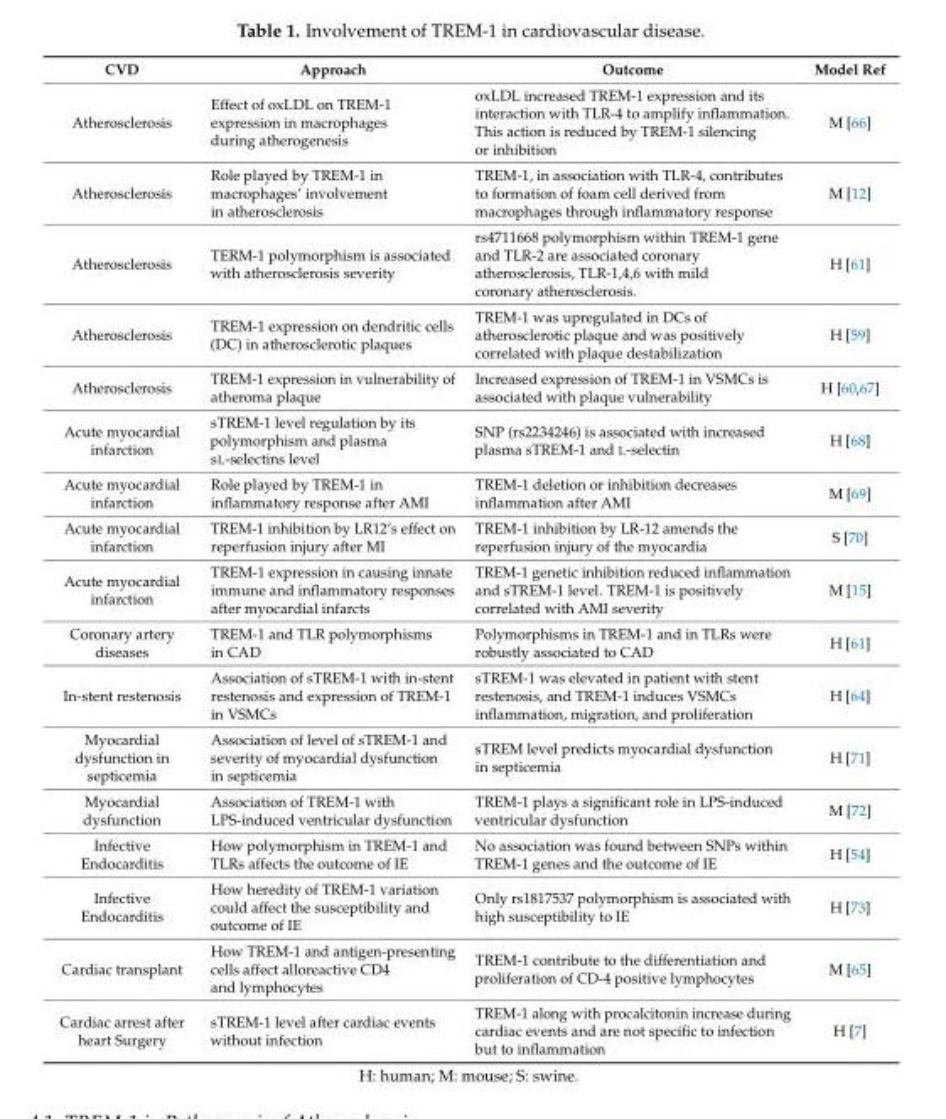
<table><thead><tr><td>CVD</td><td>Approach</td><td>Outcome</td><td>Model Ref</td></tr></thead><tbody><tr><td>Atherosclerosis</td><td>Effect of oxLDL on TREM-1 expression in macrophages during atherogenesis</td><td>oxLDL increased TREM-1 expression and its interaction with TLR-4 to amplify inflammation. This action is reduced by TREM-1 silencing or inhibition</td><td>M [66]</td></tr><tr><td>Atherosclerosis</td><td>Role played by TREM-1 in macrophages’ involvement in atherosclerosis</td><td>TREM-1, in association with TLR-4, contributes to formation of foam cell derived from macrophages through inflammatory response</td><td>M [12]</td></tr><tr><td>Atherosclerosis</td><td>TERM-1 polymorphism is associated with atherosclerosis severity</td><td>rs4711668 polymorphism within TREM-1 gene and TLR-2 are associated coronary atherosclerosis, TLR-1,4,6 with mild coronary atherosclerosis.</td><td>H [61]</td></tr><tr><td>Atherosclerosis</td><td>TREM-1 expression on dendritic cells (DC) in atherosclerotic plaques</td><td>TREM-1 was upregulated in DCs of atherosclerotic plaque and was positively correlated with plaque destabilization</td><td>H [59]</td></tr><tr><td>Atherosclerosis</td><td>TREM-1 expression in vulnerability of atheroma plaque</td><td>Increased expression of TREM-1 in VSMCs is associated with plaque vulnerability</td><td>H [60,67]</td></tr><tr><td>Acute myocardial infarction</td><td>sTREM-1 level regulation by its polymorphism and plasma sL-selectins level</td><td>SNP (rs2234246) is associated with increased plasma sTREM-1 and L-selectin</td><td>H [68]</td></tr><tr><td>Acute myocardial infarction</td><td>Role played by TREM-1 in inflammatory response after AMI</td><td>TREM-1 deletion or inhibition decreases inflammation after AMI</td><td>M [69]</td></tr><tr><td>Acute myocardial infarction</td><td>TREM-1 inhibition by LR12’s effect on reperfusion injury after MI</td><td>TREM-1 inhibition by LR-12 amends the reperfusion injury of the myocardia</td><td>S [70]</td></tr><tr><td>Acute myocardial infarction</td><td>TREM-1 expression in causing innate immune and inflammatory responses after myocardial infarcts</td><td>TREM-1 genetic inhibition reduced inflammation and sTREM-1 level. TREM-1 is positively correlated with AMI severity</td><td>M [15]</td></tr><tr><td>Coronary artery diseases</td><td>TREM-1 and TLR polymorphisms in CAD</td><td>Polymorphisms in TREM-1 and in TLRs were robustly associated to CAD</td><td>H [61]</td></tr><tr><td>In-stent restenosis</td><td>Association of sTREM-1 with in-stent restenosis and expression of TREM-1 in VSMCs</td><td>sTREM-1 was elevated in patient with stent restenosis, and TREM-1 induces VSMCs inflammation, migration, and proliferation</td><td>H [64]</td></tr><tr><td>Myocardial dysfunction in septicemia</td><td>Association of level of sTREM-1 and severity of myocardial dysfunction in septicemia</td><td>sTREM level predicts myocardial dysfunction in septicemia</td><td>H [71]</td></tr><tr><td>Myocardial dysfunction</td><td>Association of TREM-1 with LPS-induced ventricular dysfunction</td><td>TREM-1 plays a significant role in LPS-induced ventricular dysfunction</td><td>M [72]</td></tr><tr><td>Infective Endocarditis</td><td>How polymorphism in TREM-1 and TLRs affects the outcome of IE</td><td>No association was found between SNPs within TREM-1 genes and the outcome of IE</td><td>H [54]</td></tr><tr><td>Infective Endocarditis</td><td>How heredity of TREM-1 variation could affect the susceptibility and outcome of IE</td><td>Only rs1817537 polymorphism is associated with high susceptibility to IE</td><td>H [73]</td></tr><tr><td>Cardiac transplant</td><td>How TREM-1 and antigen-presenting cells affect alloreactive CD4 and lymphocytes</td><td>TREM-1 contribute to the differentiation and proliferation of CD-4 positive lymphocytes</td><td>M [65]</td></tr><tr><td>Cardiac arrest after heart Surgery</td><td>sTREM-1 level after cardiac events without infection</td><td>TREM-1 along with procalcitonin increase during cardiac events and are not specific to infection but to inflammation</td><td>H [7]</td></tr></tbody></table>